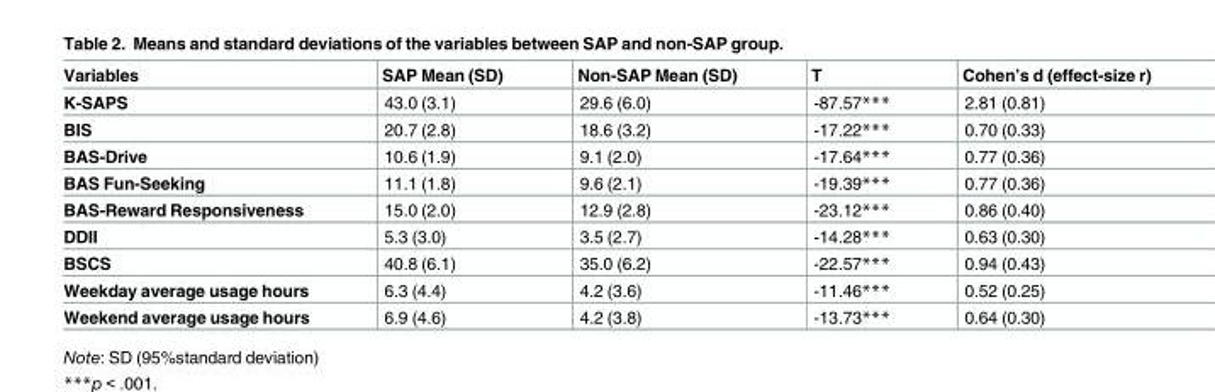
<table><thead><tr><td>Variables</td><td>SAP Mean (SD)</td><td>Non-SAP Mean (SD)</td><td>T</td><td>Cohen’s d (effect-size r)</td></tr></thead><tbody><tr><td>K-SAPS</td><td>43.0 (3.1)</td><td>29.6 (6.0)</td><td>-87.57***</td><td>2.81 (0.81)</td></tr><tr><td>BIS</td><td>20.7 (2.8)</td><td>18.6 (3.2)</td><td>-17.22***</td><td>0.70 (0.33)</td></tr><tr><td>BAS-Drive</td><td>10.6 (1.9)</td><td>9.1 (2.0)</td><td>-17.64***</td><td>0.77 (0.36)</td></tr><tr><td>BAS Fun-Seeking</td><td>11.1 (1.8)</td><td>9.6 (2.1)</td><td>-19.39***</td><td>0.77 (0.36)</td></tr><tr><td>BAS-Reward Responsiveness</td><td>15.0 (2.0)</td><td>12.9 (2.8)</td><td>-23.12***</td><td>0.86 (0.40)</td></tr><tr><td>DDII</td><td>5.3 (3.0)</td><td>3.5 (2.7)</td><td>-14.28***</td><td>0.63 (0.30)</td></tr><tr><td>BSCS</td><td>40.8 (6.1)</td><td>35.0 (6.2)</td><td>-22.57***</td><td>0.94 (0.43)</td></tr><tr><td>Weekday average usage hours</td><td>6.3 (4.4)</td><td>4.2 (3.6)</td><td>-11.46***</td><td>0.52 (0.25)</td></tr><tr><td>Weekend average usage hours</td><td>6.9 (4.6)</td><td>4.2 (3.8)</td><td>-13.73***</td><td>0.64 (0.30)</td></tr></tbody></table>